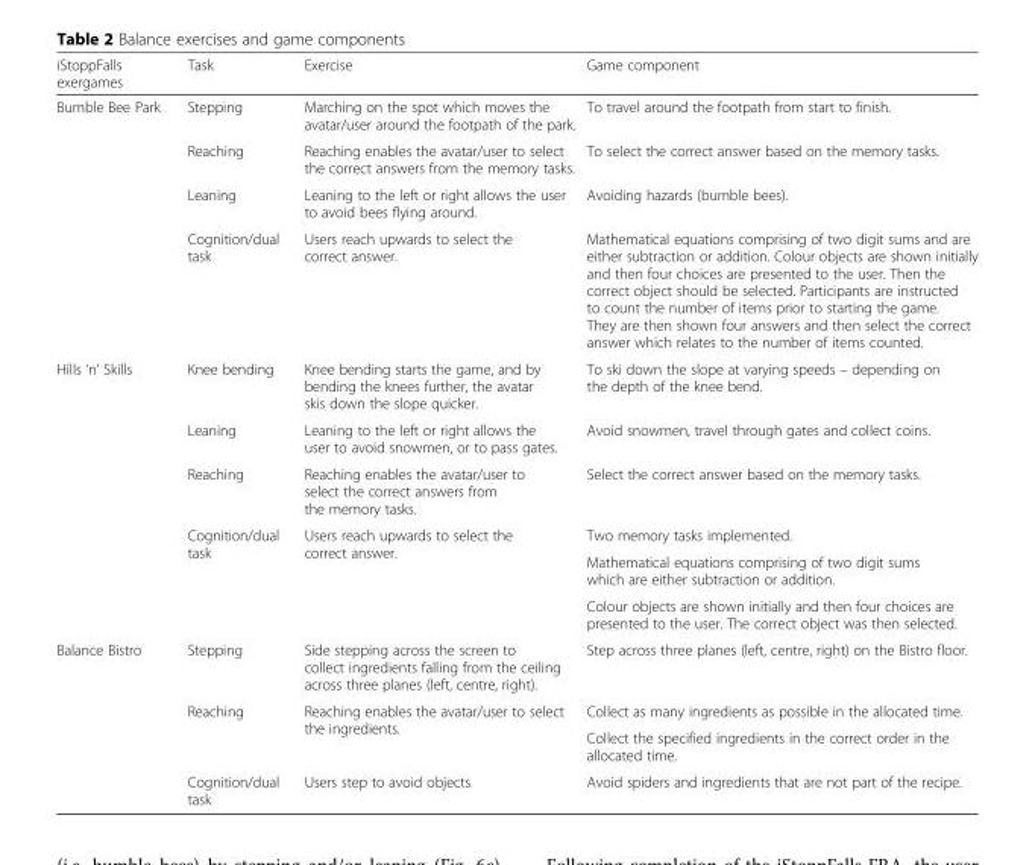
<table><thead><tr><td>iStoppFalls exergames</td><td>Task</td><td>Exercise</td><td>Game component</td></tr></thead><tbody><tr><td rowspan="4">Bumble Bee Park</td><td>Stepping</td><td>Marching on the spot which moves the avatar/user around the footpath of the park.</td><td>To travel around the footpath from start to finish.</td></tr><tr><td>Reaching</td><td>Reaching enables the avatar/user to select the correct answers from the memory tasks.</td><td>To select the correct answer based on the memory tasks.</td></tr><tr><td>Leaning</td><td>Leaning to the left or right allows the user to avoid bees flying around.</td><td>Avoiding hazards (bumble bees).</td></tr><tr><td>Cognition/dual task</td><td>Users reach upwards to select the correct answer.</td><td>Mathematical equations comprising of two digit sums and are either subtraction or addition. Colour objects are shown initially and then four choices are presented to the user. Then the correct object should be selected. Participants are instructed to count the number of items prior to starting the game. They are then shown four answers and then select the correct answer which relates to the number of items counted.</td></tr><tr><td rowspan="6">Hills ‘n’ Skills</td><td>Knee bending</td><td>Knee bending starts the game, and by bending the knees further, the avatar skis down the slope quicker.</td><td>To ski down the slope at varying speeds – depending on the depth of the knee bend.</td></tr><tr><td>Leaning</td><td>Leaning to the left or right allows the user to avoid snowmen, or to pass gates.</td><td>Avoid snowmen, travel through gates and collect coins.</td></tr><tr><td>Reaching</td><td>Reaching enables the avatar/user to select the correct answers from the memory tasks.</td><td>Select the correct answer based on the memory tasks.</td></tr><tr><td rowspan="3">Cognition/dual task</td><td rowspan="3">Users reach upwards to select the correct answer.</td><td>Two memory tasks implemented.</td></tr><tr><td>Mathematical equations comprising of two digit sums which are either subtraction or addition.</td></tr><tr><td>Colour objects are shown initially and then four choices are presented to the user. The correct object was then selected.</td></tr><tr><td rowspan="4">Balance Bistro</td><td>Stepping</td><td>Side stepping across the screen to collect ingredients falling from the ceiling across three planes (left, centre, right).</td><td>Step across three planes (left, centre, right) on the Bistro floor.</td></tr><tr><td rowspan="2">Reaching</td><td rowspan="2">Reaching enables the avatar/user to select the ingredients.</td><td>Collect as many ingredients as possible in the allocated time.</td></tr><tr><td>Collect the specified ingredients in the correct order in the allocated time.</td></tr><tr><td>Cognition/dual task</td><td>Users step to avoid objects</td><td>Avoid spiders and ingredients that are not part of the recipe.</td></tr></tbody></table>